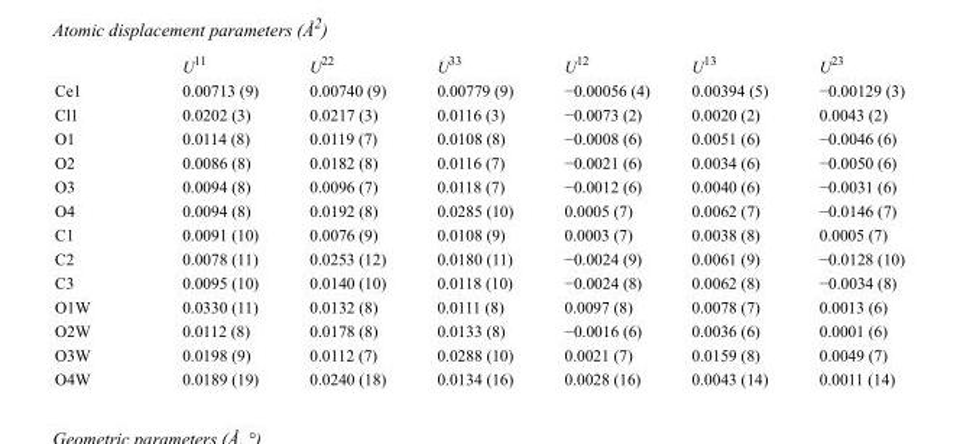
<table><thead><tr><td></td><td>U<sup>11</sup></td><td>U<sup>22</sup></td><td>U<sup>33</sup></td><td>U<sup>12</sup></td><td>U<sup>13</sup></td><td>U<sup>23</sup></td></tr></thead><tbody><tr><td>Ce1</td><td>0.00713 (9)</td><td>0.00740 (9)</td><td>0.00779 (9)</td><td>−0.00056 (4)</td><td>0.00394 (5)</td><td>−0.00129 (3)</td></tr><tr><td>Cl1</td><td>0.0202 (3)</td><td>0.0217 (3)</td><td>0.0116 (3)</td><td>−0.0073 (2)</td><td>0.0020 (2)</td><td>0.0043 (2)</td></tr><tr><td>O1</td><td>0.0114 (8)</td><td>0.0119 (7)</td><td>0.0108 (8)</td><td>−0.0008 (6)</td><td>0.0051 (6)</td><td>−0.0046 (6)</td></tr><tr><td>O2</td><td>0.0086 (8)</td><td>0.0182 (8)</td><td>0.0116 (7)</td><td>−0.0021 (6)</td><td>0.0034 (6)</td><td>−0.0050 (6)</td></tr><tr><td>O3</td><td>0.0094 (8)</td><td>0.0096 (7)</td><td>0.0118 (7)</td><td>−0.0012 (6)</td><td>0.0040 (6)</td><td>−0.0031 (6)</td></tr><tr><td>O4</td><td>0.0094 (8)</td><td>0.0192 (8)</td><td>0.0285 (10)</td><td>0.0005 (7)</td><td>0.0062 (7)</td><td>−0.0146 (7)</td></tr><tr><td>C1</td><td>0.0091 (10)</td><td>0.0076 (9)</td><td>0.0108 (9)</td><td>0.0003 (7)</td><td>0.0038 (8)</td><td>0.0005 (7)</td></tr><tr><td>C2</td><td>0.0078 (11)</td><td>0.0253 (12)</td><td>0.0180 (11)</td><td>−0.0024 (9)</td><td>0.0061 (9)</td><td>−0.0128 (10)</td></tr><tr><td>C3</td><td>0.0095 (10)</td><td>0.0140 (10)</td><td>0.0118 (10)</td><td>−0.0024 (8)</td><td>0.0062 (8)</td><td>−0.0034 (8)</td></tr><tr><td>O1W</td><td>0.0330 (11)</td><td>0.0132 (8)</td><td>0.0111 (8)</td><td>0.0097 (8)</td><td>0.0078 (7)</td><td>0.0013 (6)</td></tr><tr><td>O2W</td><td>0.0112 (8)</td><td>0.0178 (8)</td><td>0.0133 (8)</td><td>−0.0016 (6)</td><td>0.0036 (6)</td><td>0.0001 (6)</td></tr><tr><td>O3W</td><td>0.0198 (9)</td><td>0.0112 (7)</td><td>0.0288 (10)</td><td>0.0021 (7)</td><td>0.0159 (8)</td><td>0.0049 (7)</td></tr><tr><td>O4W</td><td>0.0189 (19)</td><td>0.0240 (18)</td><td>0.0134 (16)</td><td>0.0028 (16)</td><td>0.0043 (14)</td><td>0.0011 (14)</td></tr></tbody></table>